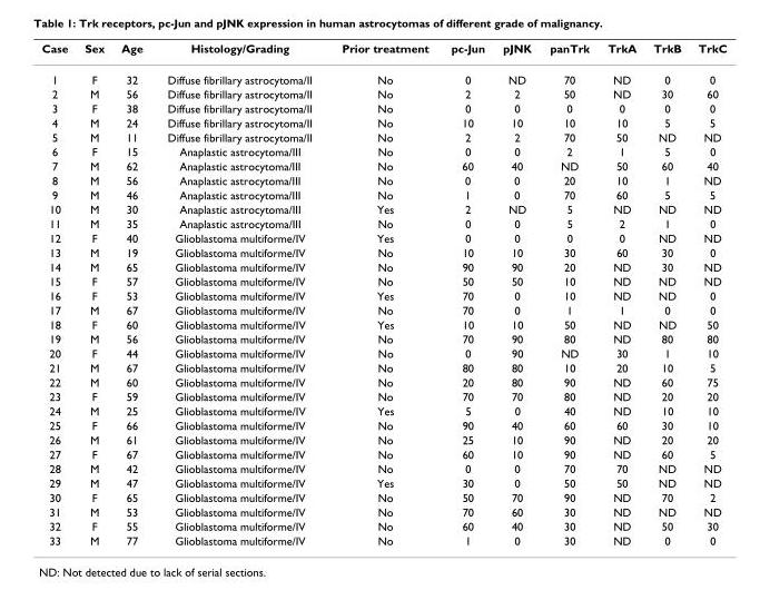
<table><thead><tr><td>Case</td><td>Sex</td><td>Age</td><td>Histology/Grading</td><td>Prior treatment</td><td>pc-Jun</td><td>pJNK</td><td>panTrk</td><td>TrkA</td><td>TrkB</td><td>TrkC</td></tr></thead><tbody><tr><td>1</td><td>F</td><td>32</td><td>Diffuse fibrillary astrocytoma/II</td><td>No</td><td>0</td><td>ND</td><td>70</td><td>ND</td><td>0</td><td>0</td></tr><tr><td>2</td><td>M</td><td>56</td><td>Diffuse fibrillary astrocytoma/II</td><td>No</td><td>2</td><td>2</td><td>50</td><td>ND</td><td>30</td><td>60</td></tr><tr><td>3</td><td>F</td><td>38</td><td>Diffuse fibrillary astrocytoma/II</td><td>No</td><td>0</td><td>0</td><td>0</td><td>0</td><td>0</td><td>0</td></tr><tr><td>4</td><td>M</td><td>24</td><td>Diffuse fibrillary astrocytoma/II</td><td>No</td><td>10</td><td>10</td><td>10</td><td>10</td><td>5</td><td>5</td></tr><tr><td>5</td><td>M</td><td>11</td><td>Diffuse fibrillary astrocytoma/II</td><td>No</td><td>2</td><td>2</td><td>70</td><td>50</td><td>ND</td><td>ND</td></tr><tr><td>6</td><td>F</td><td>15</td><td>Anaplastic astrocytoma/III</td><td>No</td><td>0</td><td>0</td><td>2</td><td>1</td><td>5</td><td>0</td></tr><tr><td>7</td><td>M</td><td>62</td><td>Anaplastic astrocytoma/III</td><td>No</td><td>60</td><td>40</td><td>ND</td><td>50</td><td>60</td><td>40</td></tr><tr><td>8</td><td>M</td><td>56</td><td>Anaplastic astrocytoma/III</td><td>No</td><td>0</td><td>0</td><td>20</td><td>10</td><td>1</td><td>ND</td></tr><tr><td>9</td><td>M</td><td>46</td><td>Anaplastic astrocytoma/III</td><td>No</td><td>1</td><td>0</td><td>70</td><td>60</td><td>5</td><td>5</td></tr><tr><td>10</td><td>M</td><td>30</td><td>Anaplastic astrocytoma/III</td><td>Yes</td><td>2</td><td>ND</td><td>5</td><td>ND</td><td>ND</td><td>ND</td></tr><tr><td>11</td><td>M</td><td>35</td><td>Anaplastic astrocytoma/III</td><td>No</td><td>0</td><td>0</td><td>5</td><td>2</td><td>1</td><td>0</td></tr><tr><td>12</td><td>F</td><td>40</td><td>Glioblastoma multiforme/IV</td><td>Yes</td><td>0</td><td>0</td><td>0</td><td>0</td><td>ND</td><td>ND</td></tr><tr><td>13</td><td>M</td><td>19</td><td>Glioblastoma multiforme/IV</td><td>No</td><td>10</td><td>10</td><td>30</td><td>60</td><td>30</td><td>0</td></tr><tr><td>14</td><td>M</td><td>65</td><td>Glioblastoma multiforme/IV</td><td>No</td><td>90</td><td>90</td><td>20</td><td>ND</td><td>30</td><td>ND</td></tr><tr><td>15</td><td>F</td><td>57</td><td>Glioblastoma multiforme/IV</td><td>No</td><td>50</td><td>50</td><td>10</td><td>ND</td><td>ND</td><td>ND</td></tr><tr><td>16</td><td>F</td><td>53</td><td>Glioblastoma multiforme/IV</td><td>Yes</td><td>70</td><td>0</td><td>10</td><td>ND</td><td>ND</td><td>0</td></tr><tr><td>17</td><td>M</td><td>67</td><td>Glioblastoma multiforme/IV</td><td>No</td><td>70</td><td>0</td><td>1</td><td>1</td><td>0</td><td>0</td></tr><tr><td>18</td><td>F</td><td>60</td><td>Glioblastoma multiforme/IV</td><td>Yes</td><td>10</td><td>10</td><td>50</td><td>ND</td><td>ND</td><td>50</td></tr><tr><td>19</td><td>M</td><td>56</td><td>Glioblastoma multiforme/IV</td><td>No</td><td>70</td><td>90</td><td>80</td><td>ND</td><td>80</td><td>80</td></tr><tr><td>20</td><td>F</td><td>44</td><td>Glioblastoma multiforme/IV</td><td>No</td><td>0</td><td>90</td><td>ND</td><td>30</td><td>1</td><td>10</td></tr><tr><td>21</td><td>M</td><td>67</td><td>Glioblastoma multiforme/IV</td><td>No</td><td>80</td><td>80</td><td>10</td><td>20</td><td>10</td><td>5</td></tr><tr><td>22</td><td>M</td><td>60</td><td>Glioblastoma multiforme/IV</td><td>No</td><td>20</td><td>80</td><td>90</td><td>ND</td><td>60</td><td>75</td></tr><tr><td>23</td><td>F</td><td>59</td><td>Glioblastoma multiforme/IV</td><td>No</td><td>70</td><td>70</td><td>80</td><td>ND</td><td>20</td><td>20</td></tr><tr><td>24</td><td>M</td><td>25</td><td>Glioblastoma multiforme/IV</td><td>Yes</td><td>5</td><td>0</td><td>40</td><td>ND</td><td>10</td><td>10</td></tr><tr><td>25</td><td>F</td><td>66</td><td>Glioblastoma multiforme/IV</td><td>No</td><td>90</td><td>40</td><td>60</td><td>60</td><td>30</td><td>10</td></tr><tr><td>26</td><td>M</td><td>61</td><td>Glioblastoma multiforme/IV</td><td>No</td><td>25</td><td>10</td><td>90</td><td>ND</td><td>20</td><td>20</td></tr><tr><td>27</td><td>F</td><td>67</td><td>Glioblastoma multiforme/IV</td><td>No</td><td>60</td><td>10</td><td>90</td><td>ND</td><td>60</td><td>5</td></tr><tr><td>28</td><td>M</td><td>42</td><td>Glioblastoma multiforme/IV</td><td>No</td><td>0</td><td>0</td><td>70</td><td>70</td><td>ND</td><td>ND</td></tr><tr><td>29</td><td>M</td><td>47</td><td>Glioblastoma multiforme/IV</td><td>Yes</td><td>30</td><td>0</td><td>50</td><td>50</td><td>ND</td><td>ND</td></tr><tr><td>30</td><td>F</td><td>65</td><td>Glioblastoma multiforme/IV</td><td>No</td><td>50</td><td>70</td><td>90</td><td>ND</td><td>70</td><td>2</td></tr><tr><td>31</td><td>M</td><td>53</td><td>Glioblastoma multiforme/IV</td><td>No</td><td>70</td><td>60</td><td>30</td><td>ND</td><td>ND</td><td>ND</td></tr><tr><td>32</td><td>F</td><td>55</td><td>Glioblastoma multiforme/IV</td><td>No</td><td>60</td><td>40</td><td>30</td><td>ND</td><td>50</td><td>30</td></tr><tr><td>33</td><td>M</td><td>77</td><td>Glioblastoma multiforme/IV</td><td>No</td><td>1</td><td>0</td><td>30</td><td>ND</td><td>0</td><td>0</td></tr></tbody></table>